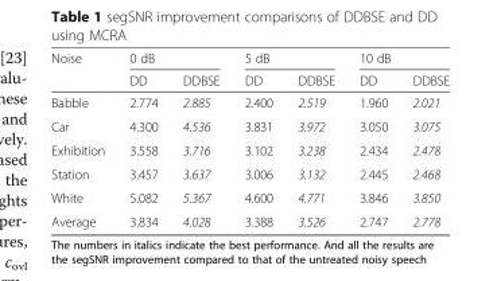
<table><thead><tr><td rowspan="2">Noise</td><td colspan="2">0 dB</td><td colspan="2">5 dB</td><td colspan="2">10 dB</td></tr><tr><td>DD</td><td>DDBSE</td><td>DD</td><td>DDBSE</td><td>DD</td><td>DDBSE</td></tr></thead><tbody><tr><td>Babble</td><td>2.774</td><td>2.885</td><td>2.400</td><td>2.519</td><td>1.960</td><td>2.021</td></tr><tr><td>Car</td><td>4.300</td><td>4.536</td><td>3.831</td><td>3.972</td><td>3.050</td><td>3.075</td></tr><tr><td>Exhibition</td><td>3.558</td><td>3.716</td><td>3.102</td><td>3.238</td><td>2.434</td><td>2.478</td></tr><tr><td>Station</td><td>3.457</td><td>3.637</td><td>3.006</td><td>3.132</td><td>2.445</td><td>2.468</td></tr><tr><td>White</td><td>5.082</td><td>5.367</td><td>4.600</td><td>4.771</td><td>3.846</td><td>3.850</td></tr><tr><td>Average</td><td>3.834</td><td>4.028</td><td>3.388</td><td>3.526</td><td>2.747</td><td>2.778</td></tr></tbody></table>